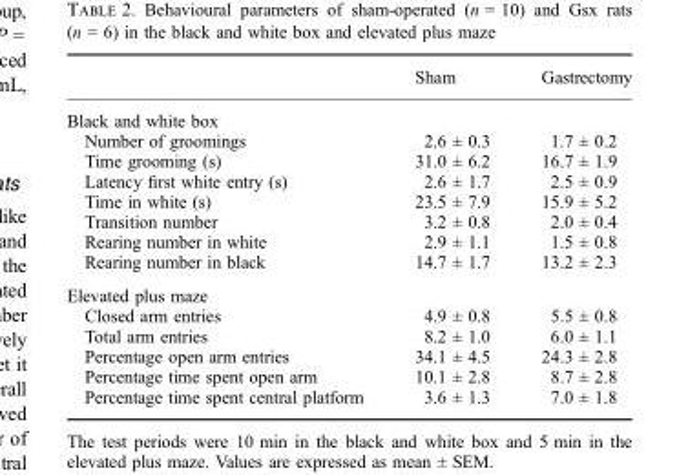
<table><thead><tr><td></td><td>Sham</td><td>Gastrectomy</td></tr></thead><tbody><tr><td colspan="3">Black and white box</td></tr><tr><td>Number of groomings</td><td>2.6 ± 0.3</td><td>1.7 ± 0.2</td></tr><tr><td>Time grooming (s)</td><td>31.0 ± 6.2</td><td>16.7 ± 1.9</td></tr><tr><td>Latency first white entry (s)</td><td>2.6 ± 1.7</td><td>2.5 ± 0.9</td></tr><tr><td>Time in white (s)</td><td>23.5 ± 7.9</td><td>15.9 ± 5.2</td></tr><tr><td>Transition number</td><td>3.2 ± 0.8</td><td>2.0 ± 0.4</td></tr><tr><td>Rearing number in white</td><td>2.9 ± 1.1</td><td>1.5 ± 0.8</td></tr><tr><td>Rearing number in black</td><td>14.7 ± 1.7</td><td>13.2 ± 2.3</td></tr><tr><td colspan="3">Elevated plus maze</td></tr><tr><td>Closed arm entries</td><td>4.9 ± 0.8</td><td>5.5 ± 0.8</td></tr><tr><td>Total arm entries</td><td>8.2 ± 1.0</td><td>6.0 ± 1.1</td></tr><tr><td>Percentage open arm entries</td><td>34.1 ± 4.5</td><td>24.3 ± 2.8</td></tr><tr><td>Percentage time spent open arm</td><td>10.1 ± 2.8</td><td>8.7 ± 2.8</td></tr><tr><td>Percentage time spent central platform</td><td>3.6 ± 1.3</td><td>7.0 ± 1.8</td></tr></tbody></table>